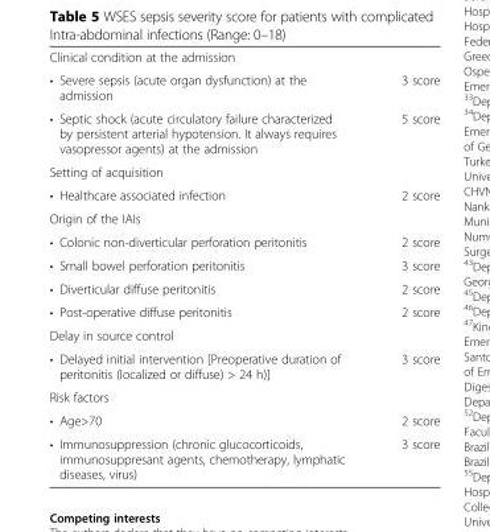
<table><tbody><tr><td colspan="2">Clinical condition at the admission</td></tr><tr><td>• Severe sepsis (acute organ dysfunction) at the admission</td><td>3 score</td></tr><tr><td>• Septic shock (acute circulatory failure characterized by persistent arterial hypotension. It always requires vasopressor agents) at the admission</td><td>5 score</td></tr><tr><td colspan="2">Setting of acquisition</td></tr><tr><td>• Healthcare associated infection</td><td>2 score</td></tr><tr><td colspan="2">Origin of the IAIs</td></tr><tr><td>• Colonic non-diverticular perforation peritonitis</td><td>2 score</td></tr><tr><td>• Small bowel perforation peritonitis</td><td>3 score</td></tr><tr><td>• Diverticular diffuse peritonitis</td><td>2 score</td></tr><tr><td>• Post-operative diffuse peritonitis</td><td>2 score</td></tr><tr><td colspan="2">Delay in source control</td></tr><tr><td>• Delayed initial intervention [Preoperative duration of peritonitis (localized or diffuse) &gt; 24 h)]</td><td>3 score</td></tr><tr><td colspan="2">Risk factors</td></tr><tr><td>• Age&gt;70</td><td>2 score</td></tr><tr><td>• Immunosuppression (chronic glucocorticoids, immunosuppresant agents, chemotherapy, lymphatic diseases, virus)</td><td>3 score</td></tr></tbody></table>